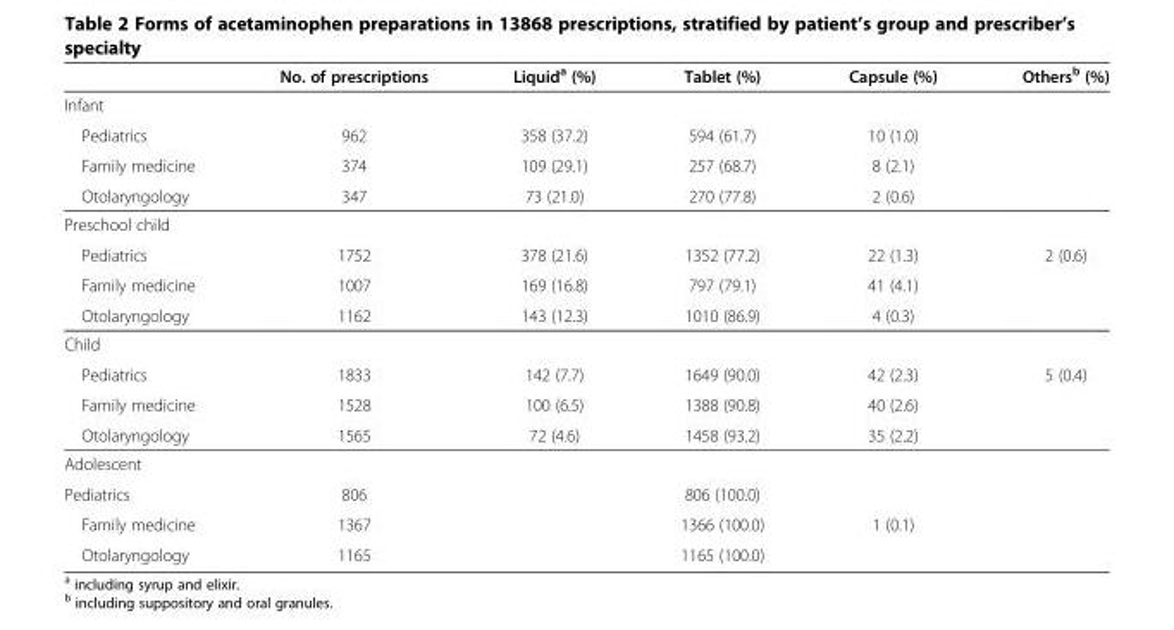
<table><thead><tr><td></td><td>No. of prescriptions</td><td>Liquid<sup>a</sup> (%)</td><td>Tablet (%)</td><td>Capsule (%)</td><td>Others<sup>b</sup> (%)</td></tr></thead><tbody><tr><td colspan="6">Infant</td></tr><tr><td>Pediatrics</td><td>962</td><td>358 (37.2)</td><td>594 (61.7)</td><td>10 (1.0)</td><td></td></tr><tr><td>Family medicine</td><td>374</td><td>109 (29.1)</td><td>257 (68.7)</td><td>8 (2.1)</td><td></td></tr><tr><td>Otolaryngology</td><td>347</td><td>73 (21.0)</td><td>270 (77.8)</td><td>2 (0.6)</td><td></td></tr><tr><td colspan="6">Preschool child</td></tr><tr><td>Pediatrics</td><td>1752</td><td>378 (21.6)</td><td>1352 (77.2)</td><td>22 (1.3)</td><td>2 (0.6)</td></tr><tr><td>Family medicine</td><td>1007</td><td>169 (16.8)</td><td>797 (79.1)</td><td>41 (4.1)</td><td></td></tr><tr><td>Otolaryngology</td><td>1162</td><td>143 (12.3)</td><td>1010 (86.9)</td><td>4 (0.3)</td><td></td></tr><tr><td colspan="6">Child</td></tr><tr><td>Pediatrics</td><td>1833</td><td>142 (7.7)</td><td>1649 (90.0)</td><td>42 (2.3)</td><td>5 (0.4)</td></tr><tr><td>Family medicine</td><td>1528</td><td>100 (6.5)</td><td>1388 (90.8)</td><td>40 (2.6)</td><td></td></tr><tr><td>Otolaryngology</td><td>1565</td><td>72 (4.6)</td><td>1458 (93.2)</td><td>35 (2.2)</td><td></td></tr><tr><td colspan="6">Adolescent</td></tr><tr><td>Pediatrics</td><td>806</td><td></td><td>806 (100.0)</td><td></td><td></td></tr><tr><td>Family medicine</td><td>1367</td><td></td><td>1366 (100.0)</td><td>1 (0.1)</td><td></td></tr><tr><td>Otolaryngology</td><td>1165</td><td></td><td>1165 (100.0)</td><td></td><td></td></tr></tbody></table>